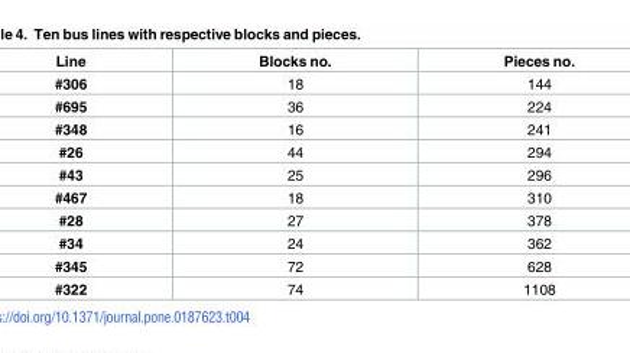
<table><thead><tr><td>Line</td><td>Blocks no.</td><td>Pieces no.</td></tr></thead><tbody><tr><td>#306</td><td>18</td><td>144</td></tr><tr><td>#695</td><td>36</td><td>224</td></tr><tr><td>#348</td><td>16</td><td>241</td></tr><tr><td>#26</td><td>44</td><td>294</td></tr><tr><td>#43</td><td>25</td><td>296</td></tr><tr><td>#467</td><td>18</td><td>310</td></tr><tr><td>#28</td><td>27</td><td>378</td></tr><tr><td>#34</td><td>24</td><td>362</td></tr><tr><td>#345</td><td>72</td><td>628</td></tr><tr><td>#322</td><td>74</td><td>1108</td></tr></tbody></table>